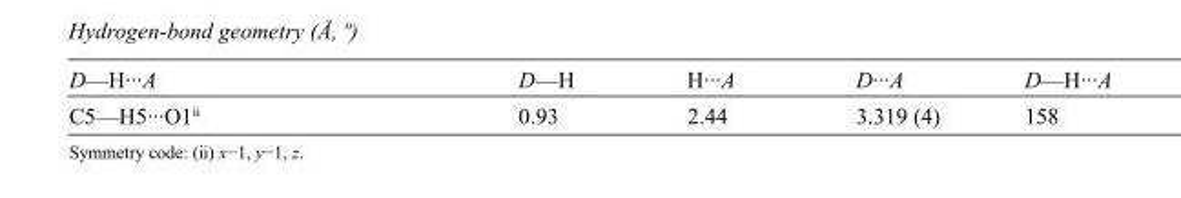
<table><tbody><tr><td>D—H···A</td><td>D—H</td><td>H···A</td><td>D···A</td><td>D—H···A</td></tr><tr><td>C5—H5···O1<sup>ii</sup></td><td>0.93</td><td>2.44</td><td>3.319 (4)</td><td>158</td></tr></tbody></table>